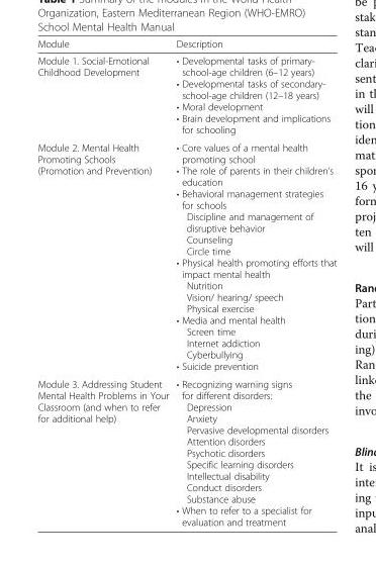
<table><thead><tr><td>Module</td><td>Description</td></tr></thead><tbody><tr><td>Module 1. Social-Emotional Childhood Development</td><td>• Developmental tasks of primary- school-age children (6–12 years) • Developmental tasks of secondary- school-age children (12–18 years) • Moral development • Brain development and implications for schooling</td></tr><tr><td>Module 2. Mental Health Promoting Schools (Promotion and Prevention)</td><td>• Core values of a mental health promoting school • The role of parents in their children’s education • Behavioral management strategies for schools Discipline and management of disruptive behavior Counseling Circle time • Physical health promoting efforts that impact mental health Nutrition Vision/ hearing/ speech Physical exercise • Media and mental health Screen time Internet addiction Cyberbullying • Suicide prevention</td></tr><tr><td>Module 3. Addressing Student Mental Health Problems in Your Classroom (and when to refer for additional help)</td><td>• Recognizing warning signs for different disorders: Depression Anxiety Pervasive developmental disorders Attention disorders Psychotic disorders Specific learning disorders Intellectual disability Conduct disorders Substance abuse • When to refer to a specialist for evaluation and treatment</td></tr></tbody></table>